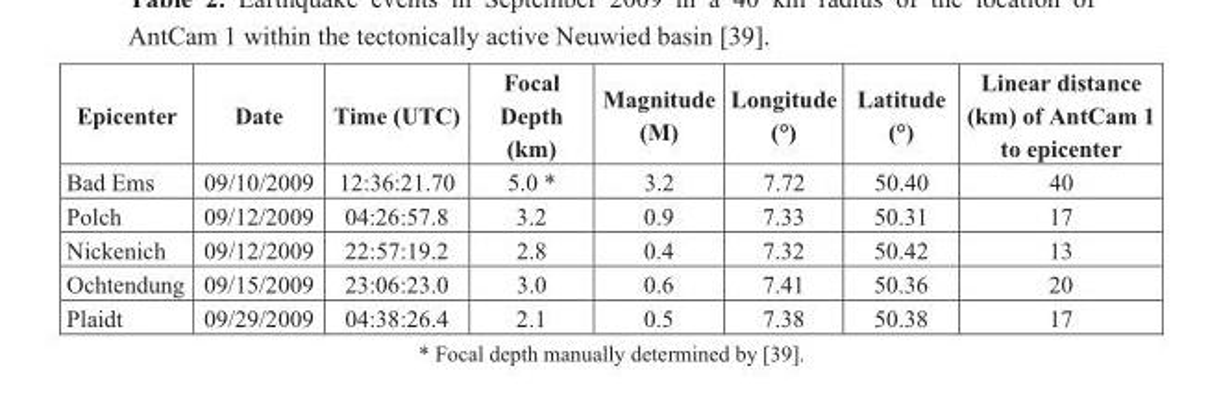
<table><thead><tr><td>Epicenter</td><td>Date</td><td>Time (UTC)</td><td>Focal Depth (km)</td><td>Magnitude (M)</td><td>Longitude (°)</td><td>Latitude (°)</td><td>Linear distance (km) of AntCam 1 to epicenter</td></tr></thead><tbody><tr><td>Bad Ems</td><td>09/10/2009</td><td>12:36:21.70</td><td>5.0 *</td><td>3.2</td><td>7.72</td><td>50.40</td><td>40</td></tr><tr><td>Polch</td><td>09/12/2009</td><td>04:26:57.8</td><td>3.2</td><td>0.9</td><td>7.33</td><td>50.31</td><td>17</td></tr><tr><td>Nickenich</td><td>09/12/2009</td><td>22:57:19.2</td><td>2.8</td><td>0.4</td><td>7.32</td><td>50.42</td><td>13</td></tr><tr><td>Ochtendung</td><td>09/15/2009</td><td>23:06:23.0</td><td>3.0</td><td>0.6</td><td>7.41</td><td>50.36</td><td>20</td></tr><tr><td>Plaidt</td><td>09/29/2009</td><td>04:38:26.4</td><td>2.1</td><td>0.5</td><td>7.38</td><td>50.38</td><td>17</td></tr></tbody></table>